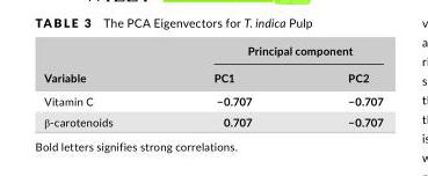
<table><thead><tr><td rowspan="2">Variable</td><td colspan="2">Principal component</td></tr><tr><td>PC1</td><td>PC2</td></tr></thead><tbody><tr><td>Vitamin C</td><td>−0.707</td><td>−0.707</td></tr><tr><td>β- carotenoids</td><td>0.707</td><td>−0.707</td></tr></tbody></table>